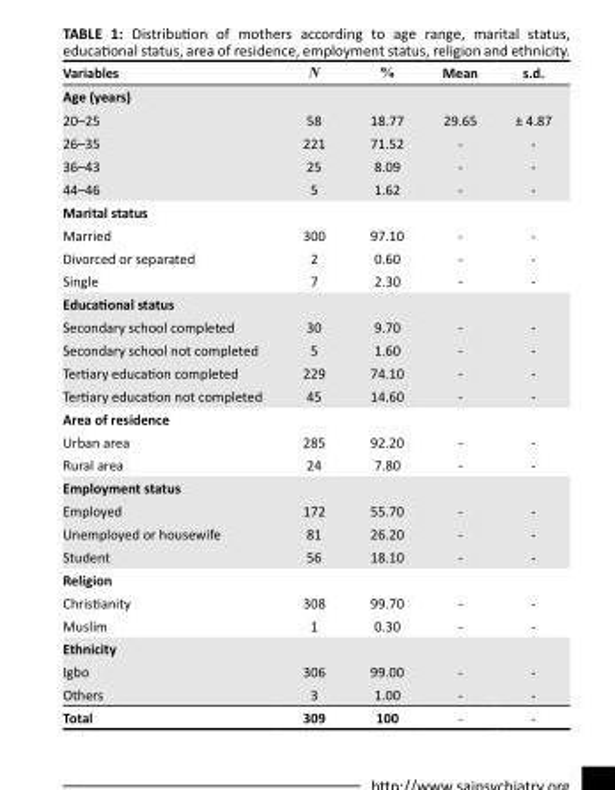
<table><thead><tr><td>Variables</td><td>N</td><td>%</td><td>Mean</td><td>s.d.</td></tr></thead><tbody><tr><td colspan="5">Age (years)</td></tr><tr><td>20–25</td><td>58</td><td>18.77</td><td>29.65</td><td>± 4.87</td></tr><tr><td>26–35</td><td>221</td><td>71.52</td><td>-</td><td>-</td></tr><tr><td>36–43</td><td>25</td><td>8.09</td><td>-</td><td>-</td></tr><tr><td>44–46</td><td>5</td><td>1.62</td><td>-</td><td>-</td></tr><tr><td colspan="5">Marital status</td></tr><tr><td>Married</td><td>300</td><td>97.10</td><td>-</td><td>-</td></tr><tr><td>Divorced or separated</td><td>2</td><td>0.60</td><td>-</td><td>-</td></tr><tr><td>Single</td><td>7</td><td>2.30</td><td>-</td><td>-</td></tr><tr><td colspan="5">Educational status</td></tr><tr><td>Secondary school completed</td><td>30</td><td>9.70</td><td>-</td><td>-</td></tr><tr><td>Secondary school not completed</td><td>5</td><td>1.60</td><td>-</td><td>-</td></tr><tr><td>Tertiary education completed</td><td>229</td><td>74.10</td><td>-</td><td>-</td></tr><tr><td>Tertiary education not completed</td><td>45</td><td>14.60</td><td>-</td><td>-</td></tr><tr><td colspan="5">Area of residence</td></tr><tr><td>Urban area</td><td>285</td><td>92.20</td><td>-</td><td>-</td></tr><tr><td>Rural area</td><td>24</td><td>7.80</td><td>-</td><td>-</td></tr><tr><td colspan="5">Employment status</td></tr><tr><td>Employed</td><td>172</td><td>55.70</td><td>-</td><td>-</td></tr><tr><td>Unemployed or housewife</td><td>81</td><td>26.20</td><td>-</td><td>-</td></tr><tr><td>Student</td><td>56</td><td>18.10</td><td>-</td><td>-</td></tr><tr><td colspan="5">Religion</td></tr><tr><td>Christianity</td><td>308</td><td>99.70</td><td>-</td><td>-</td></tr><tr><td>Muslim</td><td>1</td><td>0.30</td><td>-</td><td>-</td></tr><tr><td colspan="5">Ethnicity</td></tr><tr><td>Igbo</td><td>306</td><td>99.00</td><td>-</td><td>-</td></tr><tr><td>Others</td><td>3</td><td>1.00</td><td>-</td><td>-</td></tr><tr><td>Total</td><td>309</td><td>100</td><td>-</td><td>-</td></tr></tbody></table>